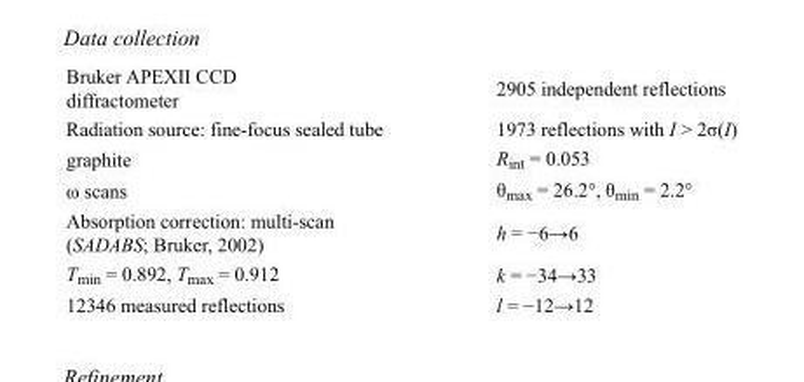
<table><tbody><tr><td>Bruker APEXII CCD diffractometer</td><td>2905 independent reflections</td></tr><tr><td>Radiation source: fine-focus sealed tube</td><td>1973 reflections with I &gt; 2σ(I)</td></tr><tr><td>graphite</td><td>R<sub>int</sub> = 0.053</td></tr><tr><td>ω scans</td><td>θ<sub>max</sub> = 26.2°, θ<sub>min</sub> = 2.2°</td></tr><tr><td>Absorption correction: multi-scan (SADABS; Bruker, 2002)</td><td>h = −6→6</td></tr><tr><td>T<sub>min</sub> = 0.892, T<sub>max</sub> = 0.912</td><td>k = −34→33</td></tr><tr><td>12346 measured reflections</td><td>l = −12→12</td></tr></tbody></table>